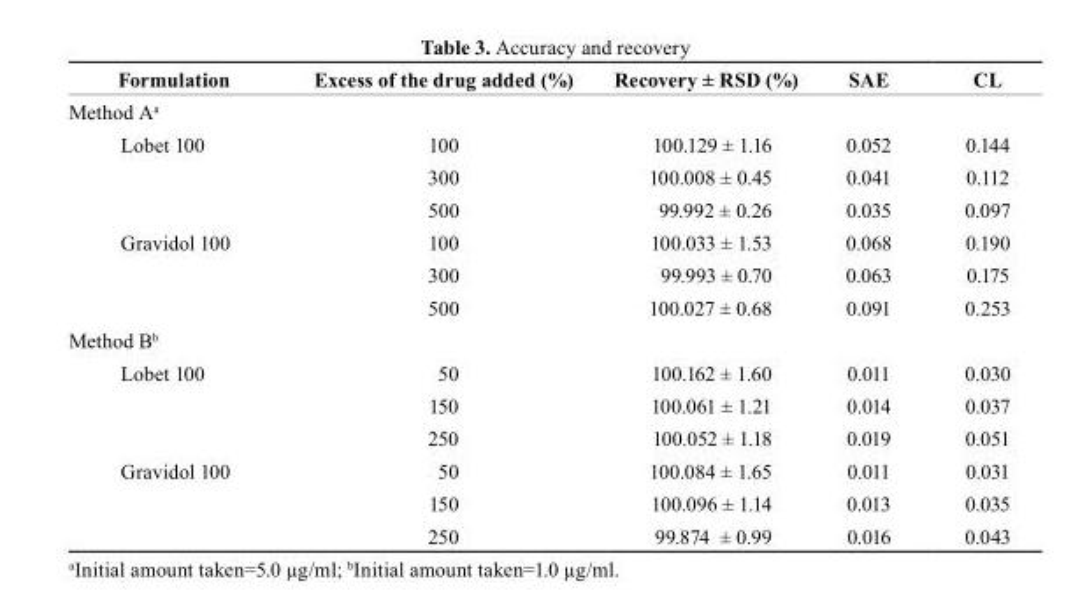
<table><thead><tr><td>Formulation</td><td>Excess of the drug added (%)</td><td>Recovery ± RSD (%)</td><td>sAE</td><td>CL</td></tr></thead><tbody><tr><td colspan="5">Method A<sup>a</sup></td></tr><tr><td rowspan="3">Lobet 100</td><td>100</td><td>100.129 ± 1.16</td><td>0.052</td><td>0.144</td></tr><tr><td>300</td><td>100.008 ± 0.45</td><td>0.041</td><td>0.112</td></tr><tr><td>500</td><td>99.992 ± 0.26</td><td>0.035</td><td>0.097</td></tr><tr><td rowspan="3">Gravidol 100</td><td>100</td><td>100.033 ± 1.53</td><td>0.068</td><td>0.190</td></tr><tr><td>300</td><td>99.993 ± 0.70</td><td>0.063</td><td>0.175</td></tr><tr><td>500</td><td>100.027 ± 0.68</td><td>0.091</td><td>0.253</td></tr><tr><td colspan="5">Method B<sup>b</sup></td></tr><tr><td rowspan="3">Lobet 100</td><td>50</td><td>100.162 ± 1.60</td><td>0.011</td><td>0.030</td></tr><tr><td>150</td><td>100.061 ± 1.21</td><td>0.014</td><td>0.037</td></tr><tr><td>250</td><td>100.052 ± 1.18</td><td>0.019</td><td>0.051</td></tr><tr><td rowspan="3">Gravidol 100</td><td>50</td><td>100.084 ± 1.65</td><td>0.011</td><td>0.031</td></tr><tr><td>150</td><td>100.096 ± 1.14</td><td>0.013</td><td>0.035</td></tr><tr><td>250</td><td>99.874 ± 0.99</td><td>0.016</td><td>0.043</td></tr></tbody></table>